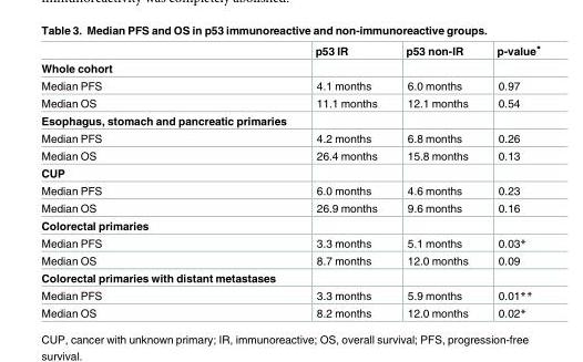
<table><thead><tr><td></td><td>p53 IR</td><td>p53 non-IR</td><td>p-value<sup>◆</sup></td></tr></thead><tbody><tr><td colspan="4">Whole cohort</td></tr><tr><td>Median PFS</td><td>4.1 months</td><td>6.0 months</td><td>0.97</td></tr><tr><td>Median OS</td><td>11.1 months</td><td>12.1 months</td><td>0.54</td></tr><tr><td colspan="4">Esophagus, stomach and pancreatic primaries</td></tr><tr><td>Median PFS</td><td>4.2 months</td><td>6.8 months</td><td>0.26</td></tr><tr><td>Median OS</td><td>26.4 months</td><td>15.8 months</td><td>0.13</td></tr><tr><td colspan="4">CUP</td></tr><tr><td>Median PFS</td><td>6.0 months</td><td>4.6 months</td><td>0.23</td></tr><tr><td>Median OS</td><td>26.9 months</td><td>9.6 months</td><td>0.16</td></tr><tr><td colspan="4">Colorectal primaries</td></tr><tr><td>Median PFS</td><td>3.3 months</td><td>5.1 months</td><td>0.03*</td></tr><tr><td>Median OS</td><td>8.7 months</td><td>12.0 months</td><td>0.09</td></tr><tr><td colspan="4">Colorectal primaries with distant metastases</td></tr><tr><td>Median PFS</td><td>3.3 months</td><td>5.9 months</td><td>0.01**</td></tr><tr><td>Median OS</td><td>8.2 months</td><td>12.0 months</td><td>0.02*</td></tr></tbody></table>